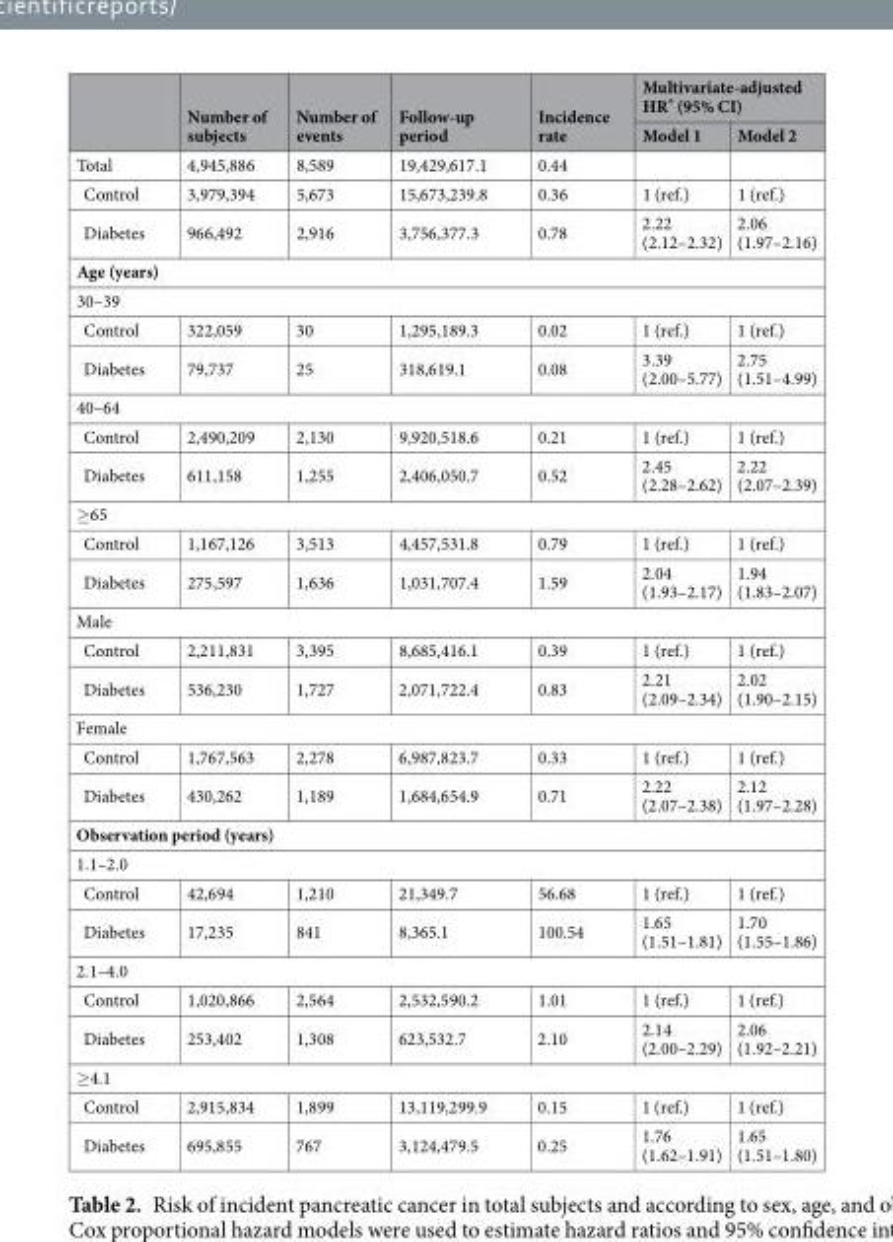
<table><thead><tr><td rowspan="2"></td><td rowspan="2">Number of subjects</td><td rowspan="2">Number of events</td><td rowspan="2">Follow-up period</td><td rowspan="2">Incidence rate</td><td colspan="2">Multivariate-adjusted HR* (95% CI)</td></tr><tr><td>Model 1</td><td>Model 2</td></tr></thead><tbody><tr><td>Total</td><td>4,945,886</td><td>8,589</td><td>19,429,617.1</td><td>0.44</td><td></td><td></td></tr><tr><td>Control</td><td>3,979,394</td><td>5,673</td><td>15,673,239.8</td><td>0.36</td><td>1 (ref.)</td><td>1 (ref.)</td></tr><tr><td>Diabetes</td><td>966,492</td><td>2,916</td><td>3,756,377.3</td><td>0.78</td><td>2.22 (2.12–2.32)</td><td>2.06 (1.97–2.16)</td></tr><tr><td colspan="7">Age (years)</td></tr><tr><td colspan="7">30–39</td></tr><tr><td>Control</td><td>322,059</td><td>30</td><td>1,295,189.3</td><td>0.02</td><td>1 (ref.)</td><td>1 (ref.)</td></tr><tr><td>Diabetes</td><td>79,737</td><td>25</td><td>318,619.1</td><td>0.08</td><td>3.39 (2.00–5.77)</td><td>2.75 (1.51–4.99)</td></tr><tr><td colspan="7">40–64</td></tr><tr><td>Control</td><td>2,490,209</td><td>2,130</td><td>9,920,518.6</td><td>0.21</td><td>1 (ref.)</td><td>1 (ref.)</td></tr><tr><td>Diabetes</td><td>611,158</td><td>1,255</td><td>2,406,050.7</td><td>0.52</td><td>2.45 (2.28–2.62)</td><td>2.22 (2.07–2.39)</td></tr><tr><td colspan="7">≥65</td></tr><tr><td>Control</td><td>1,167,126</td><td>3,513</td><td>4,457,531.8</td><td>0.79</td><td>1 (ref.)</td><td>1 (ref.)</td></tr><tr><td>Diabetes</td><td>275,597</td><td>1,636</td><td>1,031,707.4</td><td>1.59</td><td>2.04 (1.93–2.17)</td><td>1.94 (1.83–2.07)</td></tr><tr><td colspan="7">Male</td></tr><tr><td>Control</td><td>2,211,831</td><td>3,395</td><td>8,685,416.1</td><td>0.39</td><td>1 (ref.)</td><td>1 (ref.)</td></tr><tr><td>Diabetes</td><td>536,230</td><td>1,727</td><td>2,071,722.4</td><td>0.83</td><td>2.21 (2.09–2.34)</td><td>2.02 (1.90–2.15)</td></tr><tr><td colspan="7">Female</td></tr><tr><td>Control</td><td>1,767,563</td><td>2,278</td><td>6,987,823.7</td><td>0.33</td><td>1 (ref.)</td><td>1 (ref.)</td></tr><tr><td>Diabetes</td><td>430,262</td><td>1,189</td><td>1,684,654.9</td><td>0.71</td><td>2.22 (2.07–2.38)</td><td>2.12 (1.97–2.28)</td></tr><tr><td colspan="7">Observation period (years)</td></tr><tr><td colspan="7">1.1–2.0</td></tr><tr><td>Control</td><td>42,694</td><td>1,210</td><td>21,349.7</td><td>56.68</td><td>1 (ref.)</td><td>1 (ref.)</td></tr><tr><td>Diabetes</td><td>17,235</td><td>841</td><td>8,365.1</td><td>100.54</td><td>1.65 (1.51–1.81)</td><td>1.70 (1.55–1.86)</td></tr><tr><td colspan="7">2.1–4.0</td></tr><tr><td>Control</td><td>1,020,866</td><td>2,564</td><td>2,532,590.2</td><td>1.01</td><td>1 (ref.)</td><td>1 (ref.)</td></tr><tr><td>Diabetes</td><td>253,402</td><td>1,308</td><td>623,532.7</td><td>2.10</td><td>2.14 (2.00–2.29)</td><td>2.06 (1.92–2.21)</td></tr><tr><td colspan="7">≥4.1</td></tr><tr><td>Control</td><td>2,915,834</td><td>1,899</td><td>13,119,299.9</td><td>0.15</td><td>1 (ref.)</td><td>1 (ref.)</td></tr><tr><td>Diabetes</td><td>695,855</td><td>767</td><td>3,124,479.5</td><td>0.25</td><td>1.76 (1.62–1.91)</td><td>1.65 (1.51–1.80)</td></tr></tbody></table>